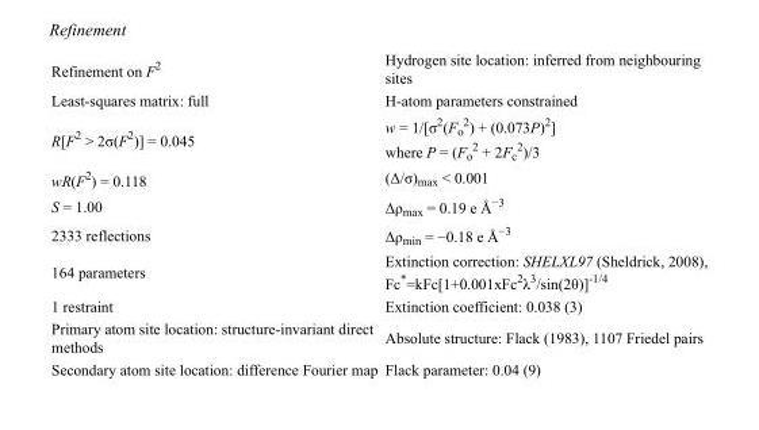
<table><tbody><tr><td>Refinement on F<sup>2</sup></td><td>Hydrogen site location: inferred from neighbouring sites</td></tr><tr><td>Least-squares matrix: full</td><td>H-atom parameters constrained</td></tr><tr><td>R[F<sup>2</sup> &gt; 2σ(F<sup>2</sup>)] = 0.045</td><td>w = 1/[σ<sup>2</sup>(F<sub>o</sub> <sup>2</sup>) + (0.073P)<sup>2</sup>] where P = (F<sub>o</sub> <sup>2</sup> + 2F<sub>c</sub> <sup>2</sup>)/3</td></tr><tr><td>wR(F<sup>2</sup>) = 0.118</td><td>(Δ/σ)<sub>max</sub> &lt; 0.001</td></tr><tr><td>S = 1.00</td><td>Δρ<sub>max</sub> = 0.19 e Å<sup>−3</sup></td></tr><tr><td>2333 reflections</td><td>Δρ<sub>min</sub> = −0.18 e Å<sup>−3</sup></td></tr><tr><td>164 parameters</td><td>Extinction correction: SHELXL97 (Sheldrick, 2008), Fc*=kFc[1+0.001xFc<sup>2</sup>λ<sup>3</sup>/sin(2θ)]<sup>-1/4</sup></td></tr><tr><td>1 restraint</td><td>Extinction coefficient: 0.038 (3)</td></tr><tr><td>Primary atom site location: structure-invariant direct methods</td><td>Absolute structure: Flack (1983), 1107 Friedel pairs</td></tr><tr><td>Secondary atom site location: difference Fourier map</td><td>Flack parameter: 0.04 (9)</td></tr></tbody></table>